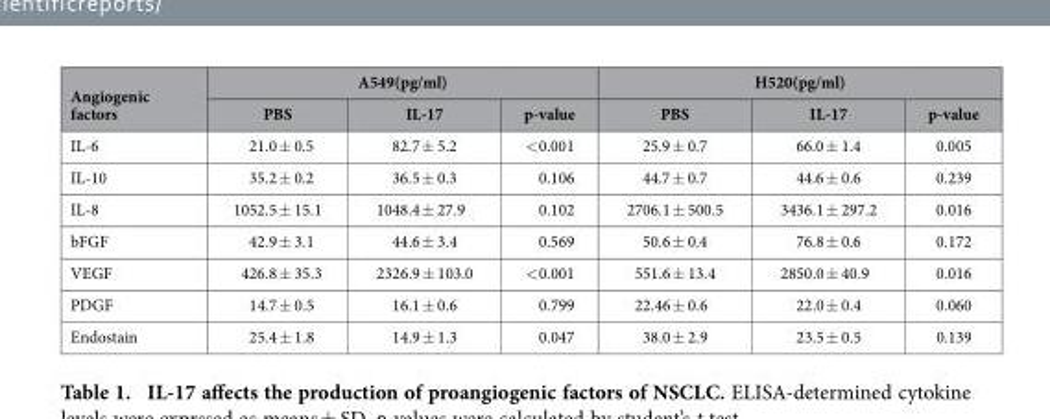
<table><thead><tr><td rowspan="2">Angiogenic factors</td><td colspan="3">A549(pg/ml)</td><td colspan="3">H520(pg/ml)</td></tr><tr><td>PBS</td><td>IL-17</td><td>p-value</td><td>PBS</td><td>IL-17</td><td>p-value</td></tr></thead><tbody><tr><td>IL-6</td><td>21.0 ± 0.5</td><td>82.7 ± 5.2</td><td>&lt; 0.001</td><td>25.9 ± 0.7</td><td>66.0 ± 1.4</td><td>0.005</td></tr><tr><td>IL-10</td><td>35.2 ± 0.2</td><td>36.5 ± 0.3</td><td>0.106</td><td>44.7 ± 0.7</td><td>44.6 ± 0.6</td><td>0.239</td></tr><tr><td>IL-8</td><td>1052.5 ± 15.1</td><td>1048.4 ± 27.9</td><td>0.102</td><td>2706.1 ± 500.5</td><td>3436.1 ± 297.2</td><td>0.016</td></tr><tr><td>bFGF</td><td>42.9 ± 3.1</td><td>44.6 ± 3.4</td><td>0.569</td><td>50.6 ± 0.4</td><td>76.8 ± 0.6</td><td>0.172</td></tr><tr><td>VEGF</td><td>426.8 ± 35.3</td><td>2326.9 ± 103.0</td><td>&lt; 0.001</td><td>551.6 ± 13.4</td><td>2850.0 ± 40.9</td><td>0.016</td></tr><tr><td>PDGF</td><td>14.7 ± 0.5</td><td>16.1 ± 0.6</td><td>0.799</td><td>22.46 ± 0.6</td><td>22.0 ± 0.4</td><td>0.060</td></tr><tr><td>Endostain</td><td>25.4 ± 1.8</td><td>14.9 ± 1.3</td><td>0.047</td><td>38.0 ± 2.9</td><td>23.5 ± 0.5</td><td>0.139</td></tr></tbody></table>